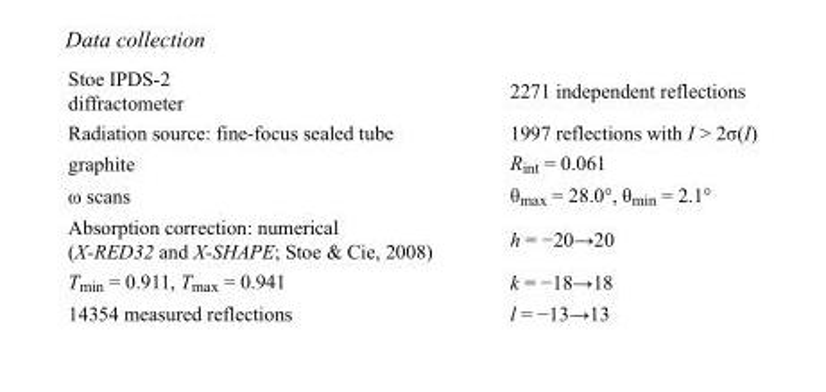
<table><tbody><tr><td>Stoe IPDS-2 diffractometer</td><td>2271 independent reflections</td></tr><tr><td>Radiation source: fine-focus sealed tube</td><td>1997 reflections with I &gt; 2σ(I)</td></tr><tr><td>graphite</td><td>R<sub>int</sub> = 0.061</td></tr><tr><td>ω scans</td><td>θ<sub>max</sub> = 28.0°, θ<sub>min</sub> = 2.1°</td></tr><tr><td>Absorption correction: numerical (X-RED32 and X-SHAPE; Stoe &amp; Cie, 2008)</td><td>h = −20→20</td></tr><tr><td>T<sub>min</sub> = 0.911, T<sub>max</sub> = 0.941</td><td>k = −18→18</td></tr><tr><td>14354 measured reflections</td><td>l = −13→13</td></tr></tbody></table>